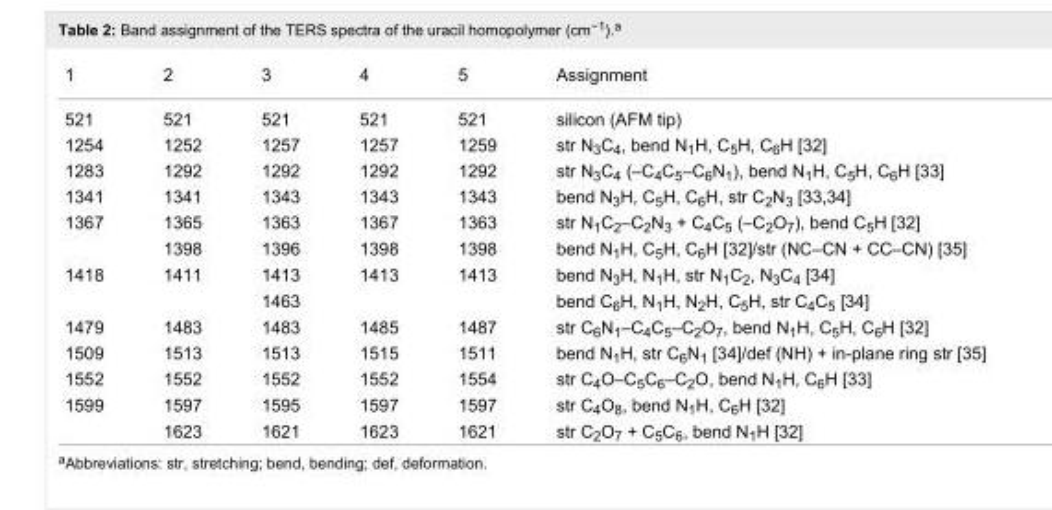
<table><tbody><tr><td>1</td><td>2</td><td>3</td><td>4</td><td>5</td><td>Assignment</td></tr><tr><td>521</td><td>521</td><td>521</td><td>521</td><td>521</td><td>silicon (AFM tip)</td></tr><tr><td>1254</td><td>1252</td><td>1257</td><td>1257</td><td>1259</td><td>str N<sub>3</sub>C<sub>4</sub>, bend N<sub>1</sub>H, C<sub>5</sub>H, C<sub>6</sub>H [32]</td></tr><tr><td>1283</td><td>1292</td><td>1292</td><td>1292</td><td>1292</td><td>str N<sub>3</sub>C<sub>4</sub> (–C<sub>4</sub>C<sub>5</sub>–C<sub>6</sub>N<sub>1</sub>), bend N<sub>1</sub>H, C<sub>5</sub>H, C<sub>6</sub>H [33]</td></tr><tr><td>1341</td><td>1341</td><td>1343</td><td>1343</td><td>1343</td><td>bend N<sub>3</sub>H, C<sub>5</sub>H, C<sub>6</sub>H, str C<sub>2</sub>N<sub>3</sub> [33–34]</td></tr><tr><td rowspan="2">1367</td><td>1365</td><td>1363</td><td>1367</td><td>1363</td><td>str N<sub>1</sub>C<sub>2</sub>–C<sub>2</sub>N<sub>3</sub> + C<sub>4</sub>C<sub>5</sub> (–C<sub>2</sub>O<sub>7</sub>), bend C<sub>5</sub>H [32]</td></tr><tr><td>1398</td><td>1396</td><td>1398</td><td>1398</td><td>bend N<sub>1</sub>H, C<sub>5</sub>H, C<sub>6</sub>H [32]/str (NC–CN + CC–CN) [35]</td></tr><tr><td rowspan="2">1418</td><td>1411</td><td>1413</td><td>1413</td><td>1413</td><td>bend N<sub>3</sub>H, N<sub>1</sub>H, str N<sub>1</sub>C<sub>2</sub>, N<sub>3</sub>C<sub>4</sub> [34]</td></tr><tr><td></td><td>1463</td><td></td><td></td><td>bend C<sub>6</sub>H, N<sub>1</sub>H, N<sub>2</sub>H, C<sub>5</sub>H, str C<sub>4</sub>C<sub>5</sub> [34]</td></tr><tr><td>1479</td><td>1483</td><td>1483</td><td>1485</td><td>1487</td><td>str C<sub>6</sub>N<sub>1</sub>–C<sub>4</sub>C<sub>5</sub>–C<sub>2</sub>O<sub>7</sub>, bend N<sub>1</sub>H, C<sub>5</sub>H, C<sub>6</sub>H [32]</td></tr><tr><td>1509</td><td>1513</td><td>1513</td><td>1515</td><td>1511</td><td>bend N<sub>1</sub>H, str C<sub>6</sub>N<sub>1</sub> [34]/def (NH) + in-plane ring str [35]</td></tr><tr><td>1552</td><td>1552</td><td>1552</td><td>1552</td><td>1554</td><td>str C<sub>4</sub>O–C<sub>5</sub>C<sub>6</sub>–C<sub>2</sub>O, bend N<sub>1</sub>H, C<sub>6</sub>H [33]</td></tr><tr><td rowspan="2">1599</td><td>1597</td><td>1595</td><td>1597</td><td>1597</td><td>str C<sub>4</sub>O<sub>8</sub>, bend N<sub>1</sub>H, C<sub>6</sub>H [32]</td></tr><tr><td>1623</td><td>1621</td><td>1623</td><td>1621</td><td>str C<sub>2</sub>O<sub>7</sub> + C<sub>5</sub>C<sub>6</sub>, bend N<sub>1</sub>H [32]</td></tr></tbody></table>